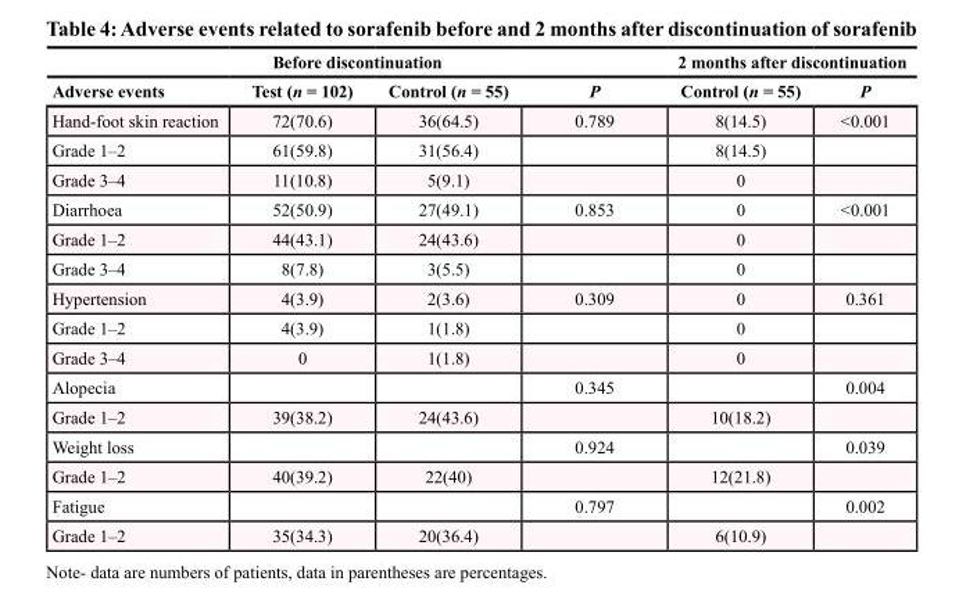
<table><thead><tr><td rowspan="2">Adverse events</td><td colspan="3">Before discontinuation</td><td colspan="2">2 months after discontinuation</td></tr><tr><td>Test (n = 102)</td><td>Control (n = 55)</td><td>P</td><td>Control (n = 55)</td><td>P</td></tr></thead><tbody><tr><td>Hand-foot skin reaction</td><td>72(70.6)</td><td>36(64.5)</td><td>0.789</td><td>8(14.5)</td><td>&lt;0.001</td></tr><tr><td>Grade 1–2</td><td>61(59.8)</td><td>31(56.4)</td><td></td><td>8(14.5)</td><td></td></tr><tr><td>Grade 3–4</td><td>11(10.8)</td><td>5(9.1)</td><td></td><td>0</td><td></td></tr><tr><td>Diarrhoea</td><td>52(50.9)</td><td>27(49.1)</td><td>0.853</td><td>0</td><td>&lt;0.001</td></tr><tr><td>Grade 1–2</td><td>44(43.1)</td><td>24(43.6)</td><td></td><td>0</td><td></td></tr><tr><td>Grade 3–4</td><td>8(7.8)</td><td>3(5.5)</td><td></td><td>0</td><td></td></tr><tr><td>Hypertension</td><td>4(3.9)</td><td>2(3.6)</td><td>0.309</td><td>0</td><td>0.361</td></tr><tr><td>Grade 1–2</td><td>4(3.9)</td><td>1(1.8)</td><td></td><td>0</td><td></td></tr><tr><td>Grade 3–4</td><td>0</td><td>1(1.8)</td><td></td><td>0</td><td></td></tr><tr><td>Alopecia</td><td></td><td></td><td>0.345</td><td></td><td>0.004</td></tr><tr><td>Grade 1–2</td><td>39(38.2)</td><td>24(43.6)</td><td></td><td>10(18.2)</td><td></td></tr><tr><td>Weight loss</td><td></td><td></td><td>0.924</td><td></td><td>0.039</td></tr><tr><td>Grade 1–2</td><td>40(39.2)</td><td>22(40)</td><td></td><td>12(21.8)</td><td></td></tr><tr><td>Fatigue</td><td></td><td></td><td>0.797</td><td></td><td>0.002</td></tr><tr><td>Grade 1–2</td><td>35(34.3)</td><td>20(36.4)</td><td></td><td>6(10.9)</td><td></td></tr></tbody></table>